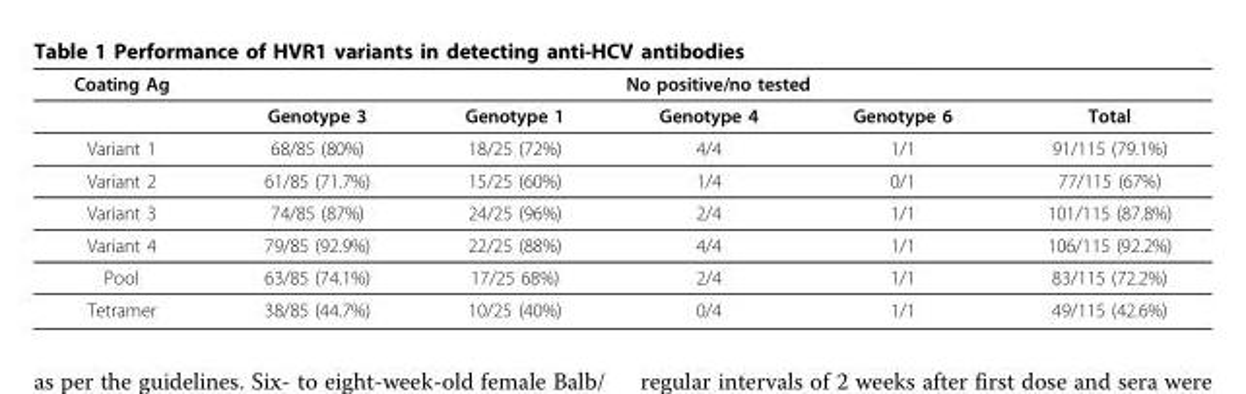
<table><thead><tr><td rowspan="2">Coating Ag</td><td colspan="5">No positive/no tested</td></tr><tr><td>Genotype 3</td><td>Genotype 1</td><td>Genotype 4</td><td>Genotype 6</td><td>Total</td></tr></thead><tbody><tr><td>Variant 1</td><td>68/85 (80%)</td><td>18/25 (72%)</td><td>4/4</td><td>1/1</td><td>91/115 (79.1%)</td></tr><tr><td>Variant 2</td><td>61/85 (71.7%)</td><td>15/25 (60%)</td><td>1/4</td><td>0/1</td><td>77/115 (67%)</td></tr><tr><td>Variant 3</td><td>74/85 (87%)</td><td>24/25 (96%)</td><td>2/4</td><td>1/1</td><td>101/115 (87.8%)</td></tr><tr><td>Variant 4</td><td>79/85 (92.9%)</td><td>22/25 (88%)</td><td>4/4</td><td>1/1</td><td>106/115 (92.2%)</td></tr><tr><td>Pool</td><td>63/85 (74.1%)</td><td>17/25 68%)</td><td>2/4</td><td>1/1</td><td>83/115 (72.2%)</td></tr><tr><td>Tetramer</td><td>38/85 (44.7%)</td><td>10/25 (40%)</td><td>0/4</td><td>1/1</td><td>49/115 (42.6%)</td></tr></tbody></table>